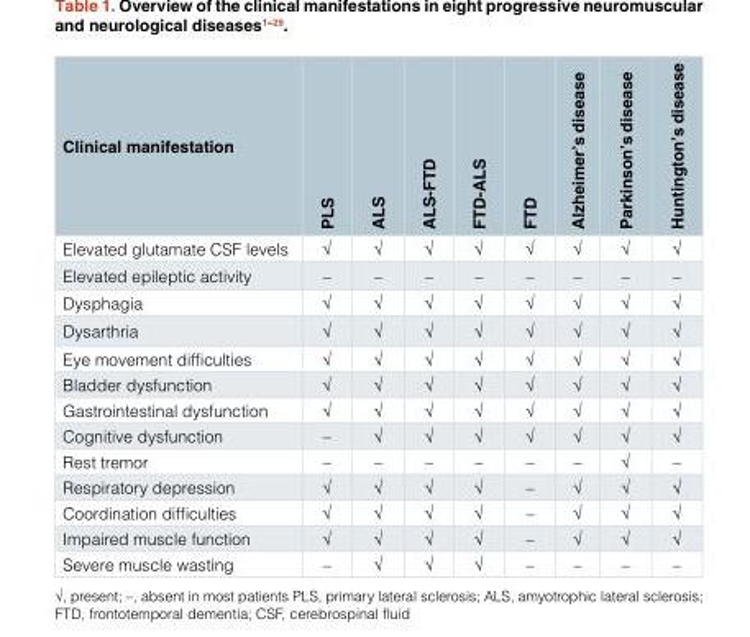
<table><thead><tr><td>Clinical manifestation</td><td>PLS</td><td>ALS</td><td>ALS-FTD</td><td>FTD-ALS</td><td>FTD</td><td>Alzheimer’s disease</td><td>Parkinson’s disease</td><td>Huntington’s disease</td></tr></thead><tbody><tr><td>Elevated glutamate CSF levels</td><td>√</td><td>√</td><td>√</td><td>√</td><td>√</td><td>√</td><td>√</td><td>√</td></tr><tr><td>Elevated epileptic activity</td><td>–</td><td>–</td><td>–</td><td>–</td><td>–</td><td>–</td><td>–</td><td>–</td></tr><tr><td>Dysphagia</td><td>√</td><td>√</td><td>√</td><td>√</td><td>√</td><td>√</td><td>√</td><td>√</td></tr><tr><td>Dysarthria</td><td>√</td><td>√</td><td>√</td><td>√</td><td>√</td><td>√</td><td>√</td><td>√</td></tr><tr><td>Eye movement difficulties</td><td>√</td><td>√</td><td>√</td><td>√</td><td>√</td><td>√</td><td>√</td><td>√</td></tr><tr><td>Bladder dysfunction</td><td>√</td><td>√</td><td>√</td><td>√</td><td>√</td><td>√</td><td>√</td><td>√</td></tr><tr><td>Gastrointestinal dysfunction</td><td>√</td><td>√</td><td>√</td><td>√</td><td>√</td><td>√</td><td>√</td><td>√</td></tr><tr><td>Cognitive dysfunction</td><td>–</td><td>√</td><td>√</td><td>√</td><td>√</td><td>√</td><td>√</td><td>√</td></tr><tr><td>Rest tremor</td><td>–</td><td>–</td><td>–</td><td>–</td><td>–</td><td>–</td><td>√</td><td>–</td></tr><tr><td>Respiratory depression</td><td>√</td><td>√</td><td>√</td><td>√</td><td>–</td><td>√</td><td>√</td><td>√</td></tr><tr><td>Coordination difficulties</td><td>√</td><td>√</td><td>√</td><td>√</td><td>–</td><td>√</td><td>√</td><td>√</td></tr><tr><td>Impaired muscle function</td><td>√</td><td>√</td><td>√</td><td>√</td><td>–</td><td>√</td><td>√</td><td>√</td></tr><tr><td>Severe muscle wasting</td><td>–</td><td>√</td><td>√</td><td>√</td><td>–</td><td>–</td><td>–</td><td>–</td></tr></tbody></table>